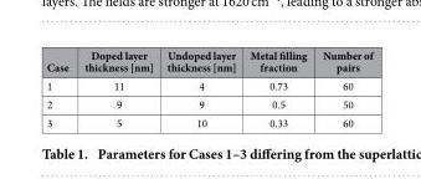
<table><thead><tr><td>Case</td><td>Doped layer thickness [nm]</td><td>Undoped layer thickness [nm]</td><td>Metal filling fraction</td><td>Number of pairs</td></tr></thead><tbody><tr><td>1</td><td>11</td><td>4</td><td>0.73</td><td>60</td></tr><tr><td>2</td><td>9</td><td>9</td><td>0.5</td><td>50</td></tr><tr><td>3</td><td>5</td><td>10</td><td>0.33</td><td>60</td></tr></tbody></table>